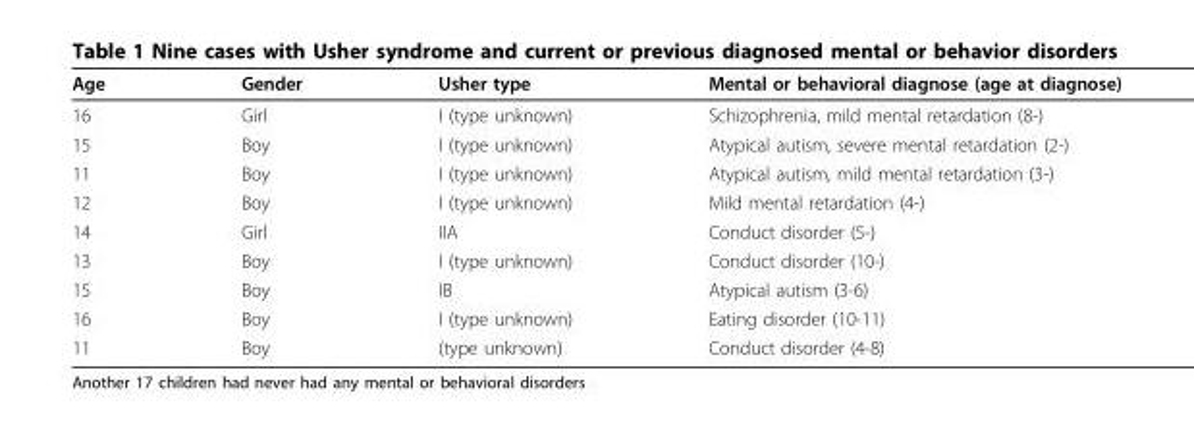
<table><thead><tr><td>Age</td><td>Gender</td><td>Usher type</td><td>Mental or behavioral diagnose (age at diagnose)</td></tr></thead><tbody><tr><td>16</td><td>Girl</td><td>I (type unknown)</td><td>Schizophrenia, mild mental retardation (8-)</td></tr><tr><td>15</td><td>Boy</td><td>I (type unknown)</td><td>Atypical autism, severe mental retardation (2-)</td></tr><tr><td>11</td><td>Boy</td><td>I (type unknown)</td><td>Atypical autism, mild mental retardation (3-)</td></tr><tr><td>12</td><td>Boy</td><td>I (type unknown)</td><td>Mild mental retardation (4-)</td></tr><tr><td>14</td><td>Girl</td><td>IIA</td><td>Conduct disorder (5-)</td></tr><tr><td>13</td><td>Boy</td><td>I (type unknown)</td><td>Conduct disorder (10-)</td></tr><tr><td>15</td><td>Boy</td><td>IB</td><td>Atypical autism (3-6)</td></tr><tr><td>16</td><td>Boy</td><td>I (type unknown)</td><td>Eating disorder (10-11)</td></tr><tr><td>11</td><td>Boy</td><td>(type unknown)</td><td>Conduct disorder (4-8)</td></tr></tbody></table>